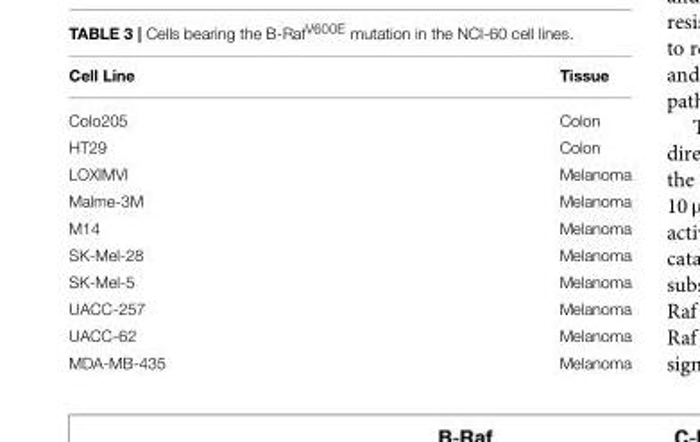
<table><thead><tr><td>Cell Line</td><td>Tissue</td></tr></thead><tbody><tr><td>Colo205</td><td>Colon</td></tr><tr><td>HT29</td><td>Colon</td></tr><tr><td>LOXIMVI</td><td>Melanoma</td></tr><tr><td>Malme-3M</td><td>Melanoma</td></tr><tr><td>M14</td><td>Melanoma</td></tr><tr><td>SK-Mel-28</td><td>Melanoma</td></tr><tr><td>SK-Mel-5</td><td>Melanoma</td></tr><tr><td>UACC-257</td><td>Melanoma</td></tr><tr><td>UACC-62</td><td>Melanoma</td></tr><tr><td>MDA-MB-435</td><td>Melanoma</td></tr></tbody></table>